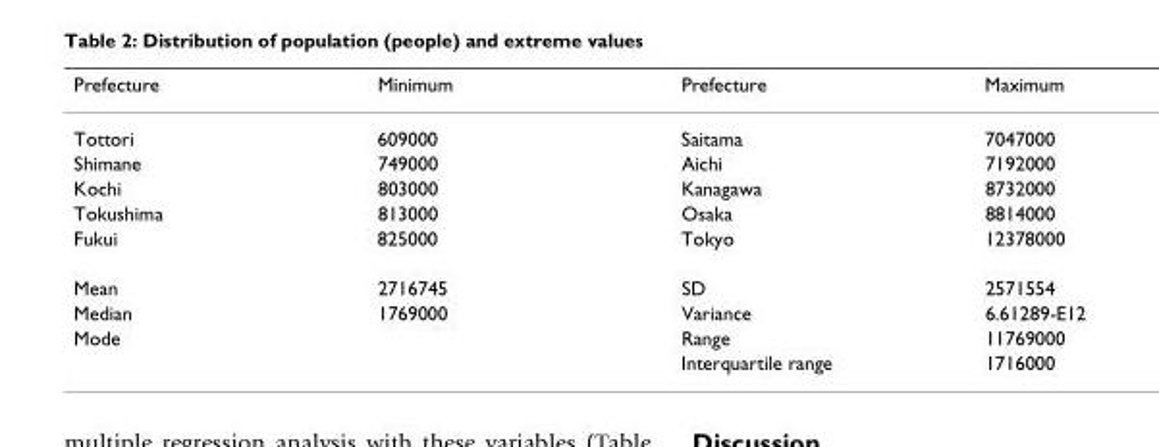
<table><thead><tr><td>Prefecture</td><td>Minimum</td><td>Prefecture</td><td>Maximum</td></tr></thead><tbody><tr><td>Tottori</td><td>609000</td><td>Saitama</td><td>7047000</td></tr><tr><td>Shimane</td><td>749000</td><td>Aichi</td><td>7192000</td></tr><tr><td>Kochi</td><td>803000</td><td>Kanagawa</td><td>8732000</td></tr><tr><td>Tokushima</td><td>813000</td><td>Osaka</td><td>8814000</td></tr><tr><td>Fukui</td><td>825000</td><td>Tokyo</td><td>12378000</td></tr><tr><td>Mean</td><td>2716745</td><td>SD</td><td>2571554</td></tr><tr><td>Median</td><td>1769000</td><td>Variance</td><td>6.61289-E12</td></tr><tr><td rowspan="2">Mode</td><td></td><td>Range</td><td>11769000</td></tr><tr><td></td><td>Interquartile range</td><td>1716000</td></tr></tbody></table>